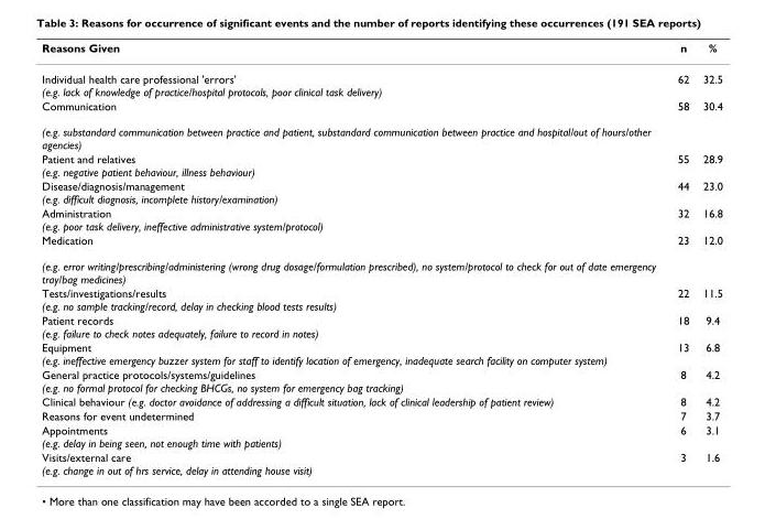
<table><thead><tr><td>Reasons Given</td><td>n</td><td>%</td></tr></thead><tbody><tr><td>Individual health care professional &#x27;errors&#x27; (e.g. lack of knowledge of practice/hospital protocols, poor clinical task delivery)</td><td>62</td><td>32.5</td></tr><tr><td>Communication (e.g. substandard communication between practice and patient, substandard communication between practice and hospital/out of hours/other agencies)</td><td>58</td><td>30.4</td></tr><tr><td>Patient and relatives (e.g. negative patient behaviour, illness behaviour)</td><td>55</td><td>28.9</td></tr><tr><td>Disease/diagnosis/management (e.g. difficult diagnosis, incomplete history/examination)</td><td>44</td><td>23.0</td></tr><tr><td>Administration (e.g. poor task delivery, ineffective administrative system/protocol)</td><td>32</td><td>16.8</td></tr><tr><td>Medication (e.g. error writing/prescribing/administering (wrong drug dosage/formulation prescribed), no system/protocol to check for out of date emergency tray/bag medicines)</td><td>23</td><td>12.0</td></tr><tr><td>Tests/investigations/results (e.g. no sample tracking/record, delay in checking blood tests results)</td><td>22</td><td>11.5</td></tr><tr><td>Patient records (e.g. failure to check notes adequately, failure to record in notes)</td><td>18</td><td>9.4</td></tr><tr><td>Equipment (e.g. ineffective emergency buzzer system for staff to identify location of emergency, inadequate search facility on computer system)</td><td>13</td><td>6.8</td></tr><tr><td>General practice protocols/systems/guidelines (e.g. no formal protocol for checking BHCGs, no system for emergency bag tracking)</td><td>8</td><td>4.2</td></tr><tr><td>Clinical behaviour (e.g. doctor avoidance of addressing a difficult situation, lack of clinical leadership of patient review)</td><td>8</td><td>4.2</td></tr><tr><td>Reasons for event undetermined</td><td>7</td><td>3.7</td></tr><tr><td>Appointments (e.g. delay in being seen, not enough time with patients)</td><td>6</td><td>3.1</td></tr><tr><td>Visits/external care (e.g. change in out of hrs service, delay in attending house visit)</td><td>3</td><td>1.6</td></tr></tbody></table>